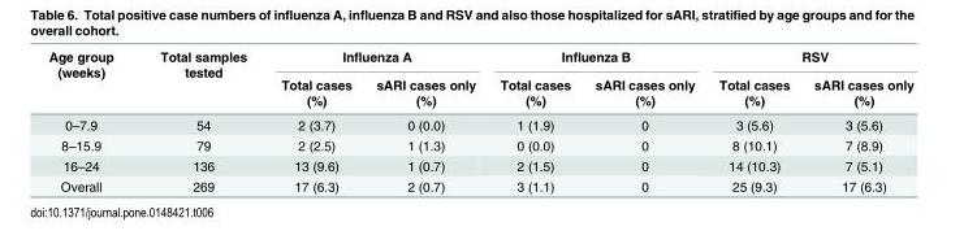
<table><thead><tr><td rowspan="2">Age group (weeks)</td><td rowspan="2">Total samples tested</td><td colspan="2">Influenza A</td><td colspan="2">Influenza B</td><td colspan="2">RSV</td></tr><tr><td>Total cases (%)</td><td>sARI cases only (%)</td><td>Total cases (%)</td><td>sARI cases only (%)</td><td>Total cases (%)</td><td>sARI cases only (%)</td></tr></thead><tbody><tr><td>0–7.9</td><td>54</td><td>2 (3.7)</td><td>0 (0.0)</td><td>1 (1.9)</td><td>0</td><td>3 (5.6)</td><td>3 (5.6)</td></tr><tr><td>8–15.9</td><td>79</td><td>2 (2.5)</td><td>1 (1.3)</td><td>0 (0.0)</td><td>0</td><td>8 (10.1)</td><td>7 (8.9)</td></tr><tr><td>16–24</td><td>136</td><td>13 (9.6)</td><td>1 (0.7)</td><td>2 (1.5)</td><td>0</td><td>14 (10.3)</td><td>7 (5.1)</td></tr><tr><td>Overall</td><td>269</td><td>17 (6.3)</td><td>2 (0.7)</td><td>3 (1.1)</td><td>0</td><td>25 (9.3)</td><td>17 (6.3)</td></tr></tbody></table>